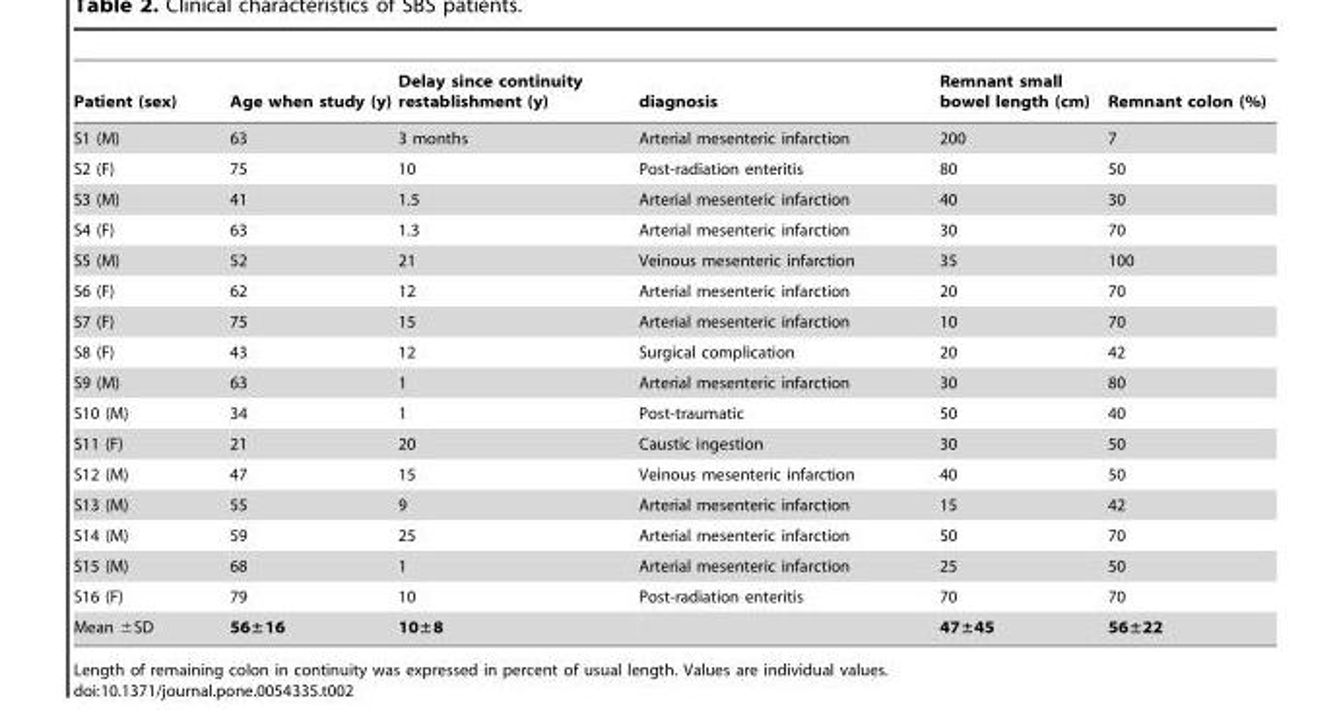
<table><thead><tr><td>Patient (sex)</td><td>Age when study (y)</td><td>Delay since continuity restablishment (y)</td><td>diagnosis</td><td>Remnant small bowel length (cm)</td><td>Remnant colon (%)</td></tr></thead><tbody><tr><td>S1 (M)</td><td>63</td><td>3 months</td><td>Arterial mesenteric infarction</td><td>200</td><td>7</td></tr><tr><td>S2 (F)</td><td>75</td><td>10</td><td>Post-radiation enteritis</td><td>80</td><td>50</td></tr><tr><td>S3 (M)</td><td>41</td><td>1.5</td><td>Arterial mesenteric infarction</td><td>40</td><td>30</td></tr><tr><td>S4 (F)</td><td>63</td><td>1.3</td><td>Arterial mesenteric infarction</td><td>30</td><td>70</td></tr><tr><td>S5 (M)</td><td>52</td><td>21</td><td>Veinous mesenteric infarction</td><td>35</td><td>100</td></tr><tr><td>S6 (F)</td><td>62</td><td>12</td><td>Arterial mesenteric infarction</td><td>20</td><td>70</td></tr><tr><td>S7 (F)</td><td>75</td><td>15</td><td>Arterial mesenteric infarction</td><td>10</td><td>70</td></tr><tr><td>S8 (F)</td><td>43</td><td>12</td><td>Surgical complication</td><td>20</td><td>42</td></tr><tr><td>S9 (M)</td><td>63</td><td>1</td><td>Arterial mesenteric infarction</td><td>30</td><td>80</td></tr><tr><td>S10 (M)</td><td>34</td><td>1</td><td>Post-traumatic</td><td>50</td><td>40</td></tr><tr><td>S11 (F)</td><td>21</td><td>20</td><td>Caustic ingestion</td><td>30</td><td>50</td></tr><tr><td>S12 (M)</td><td>47</td><td>15</td><td>Veinous mesenteric infarction</td><td>40</td><td>50</td></tr><tr><td>S13 (M)</td><td>55</td><td>9</td><td>Arterial mesenteric infarction</td><td>15</td><td>42</td></tr><tr><td>S14 (M)</td><td>59</td><td>25</td><td>Arterial mesenteric infarction</td><td>50</td><td>70</td></tr><tr><td>S15 (M)</td><td>68</td><td>1</td><td>Arterial mesenteric infarction</td><td>25</td><td>50</td></tr><tr><td>S16 (F)</td><td>79</td><td>10</td><td>Post-radiation enteritis</td><td>70</td><td>70</td></tr><tr><td>Mean ±SD</td><td>56±16</td><td>10±8</td><td></td><td>47±45</td><td>56±22</td></tr></tbody></table>